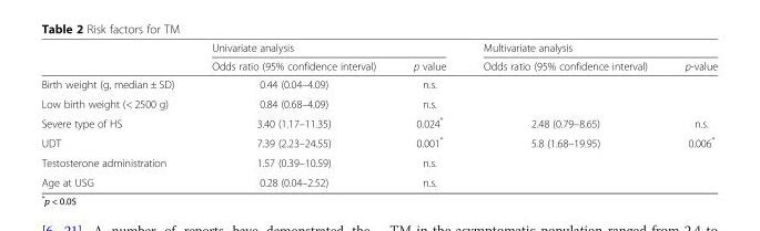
<table><thead><tr><td rowspan="2"></td><td colspan="2">Univariate analysis</td><td colspan="2">Multivariate analysis</td></tr><tr><td>Odds ratio (95% confidence interval)</td><td>p value</td><td>Odds ratio (95% confidence interval)</td><td>p-value</td></tr></thead><tbody><tr><td>Birth weight (g, median ± SD)</td><td>0.44 (0.04–4.09)</td><td>n.s.</td><td></td><td></td></tr><tr><td>Low birth weight (&lt; 2500 g)</td><td>0.84 (0.68–4.09)</td><td>n.s.</td><td></td><td></td></tr><tr><td>Severe type of HS</td><td>3.40 (1.17–11.35)</td><td>0.024*</td><td>2.48 (0.79–8.65)</td><td>n.s.</td></tr><tr><td>UDT</td><td>7.39 (2.23–24.55)</td><td>0.001*</td><td>5.8 (1.68–19.95)</td><td>0.006*</td></tr><tr><td>Testosterone administration</td><td>1.57 (0.39–10.59)</td><td>n.s.</td><td></td><td></td></tr><tr><td>Age at USG</td><td>0.28 (0.04–2.52)</td><td>n.s.</td><td></td><td></td></tr></tbody></table>